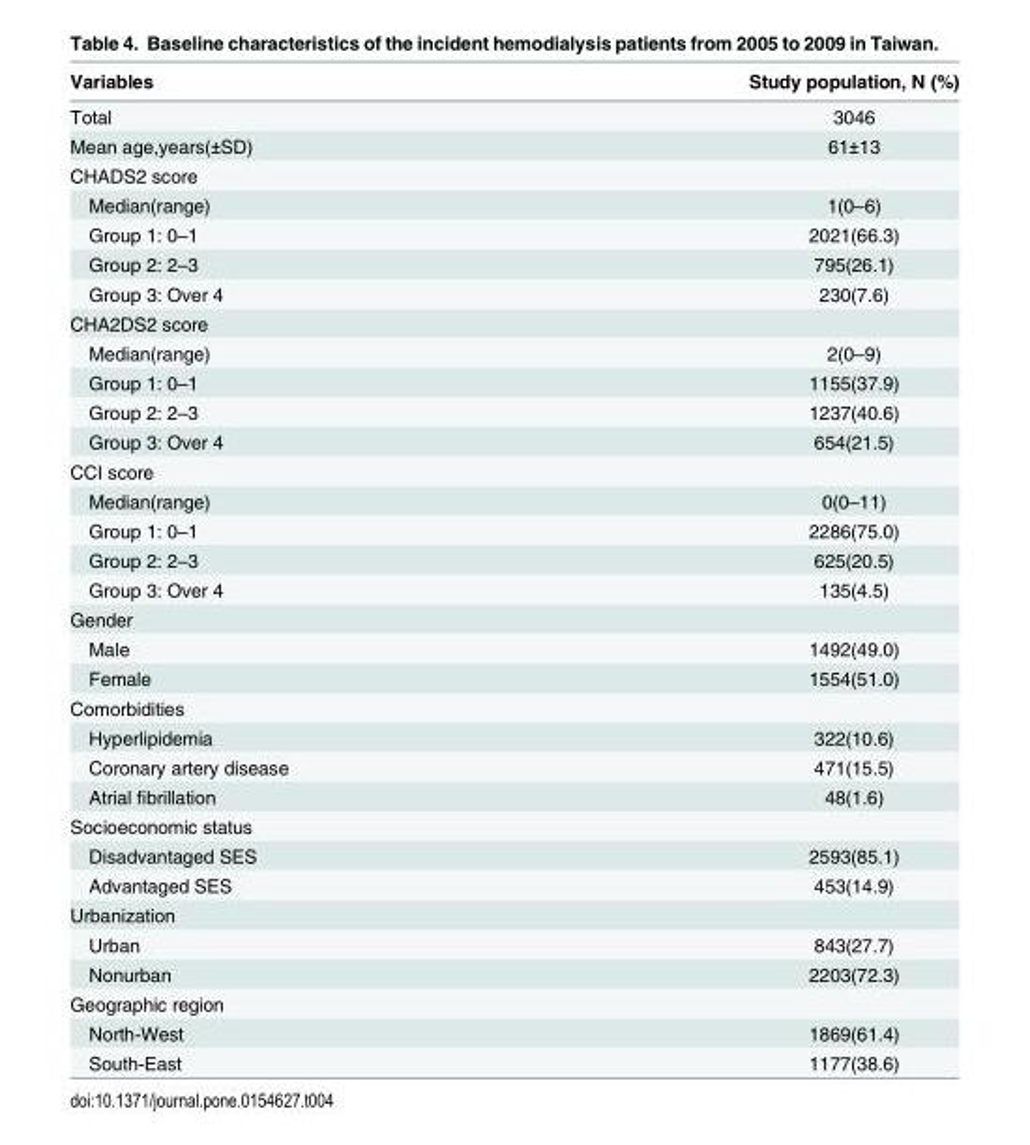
<table><thead><tr><td>Variables</td><td>Study population, N (%)</td></tr></thead><tbody><tr><td>Total</td><td>3046</td></tr><tr><td>Mean age,years(±SD)</td><td>61±13</td></tr><tr><td colspan="2">CHADS2 score</td></tr><tr><td>Median(range)</td><td>1(0–6)</td></tr><tr><td>Group 1: 0–1</td><td>2021(66.3)</td></tr><tr><td>Group 2: 2–3</td><td>795(26.1)</td></tr><tr><td>Group 3: Over 4</td><td>230(7.6)</td></tr><tr><td colspan="2">CHA2DS2 score</td></tr><tr><td>Median(range)</td><td>2(0–9)</td></tr><tr><td>Group 1: 0–1</td><td>1155(37.9)</td></tr><tr><td>Group 2: 2–3</td><td>1237(40.6)</td></tr><tr><td>Group 3: Over 4</td><td>654(21.5)</td></tr><tr><td colspan="2">CCI score</td></tr><tr><td>Median(range)</td><td>0(0–11)</td></tr><tr><td>Group 1: 0–1</td><td>2286(75.0)</td></tr><tr><td>Group 2: 2–3</td><td>625(20.5)</td></tr><tr><td>Group 3: Over 4</td><td>135(4.5)</td></tr><tr><td colspan="2">Gender</td></tr><tr><td>Male</td><td>1492(49.0)</td></tr><tr><td>Female</td><td>1554(51.0)</td></tr><tr><td colspan="2">Comorbidities</td></tr><tr><td>Hyperlipidemia</td><td>322(10.6)</td></tr><tr><td>Coronary artery disease</td><td>471(15.5)</td></tr><tr><td>Atrial fibrillation</td><td>48(1.6)</td></tr><tr><td colspan="2">Socioeconomic status</td></tr><tr><td>Disadvantaged SES</td><td>2593(85.1)</td></tr><tr><td>Advantaged SES</td><td>453(14.9)</td></tr><tr><td colspan="2">Urbanization</td></tr><tr><td>Urban</td><td>843(27.7)</td></tr><tr><td>Nonurban</td><td>2203(72.3)</td></tr><tr><td colspan="2">Geographic region</td></tr><tr><td>North-West</td><td>1869(61.4)</td></tr><tr><td>South-East</td><td>1177(38.6)</td></tr></tbody></table>